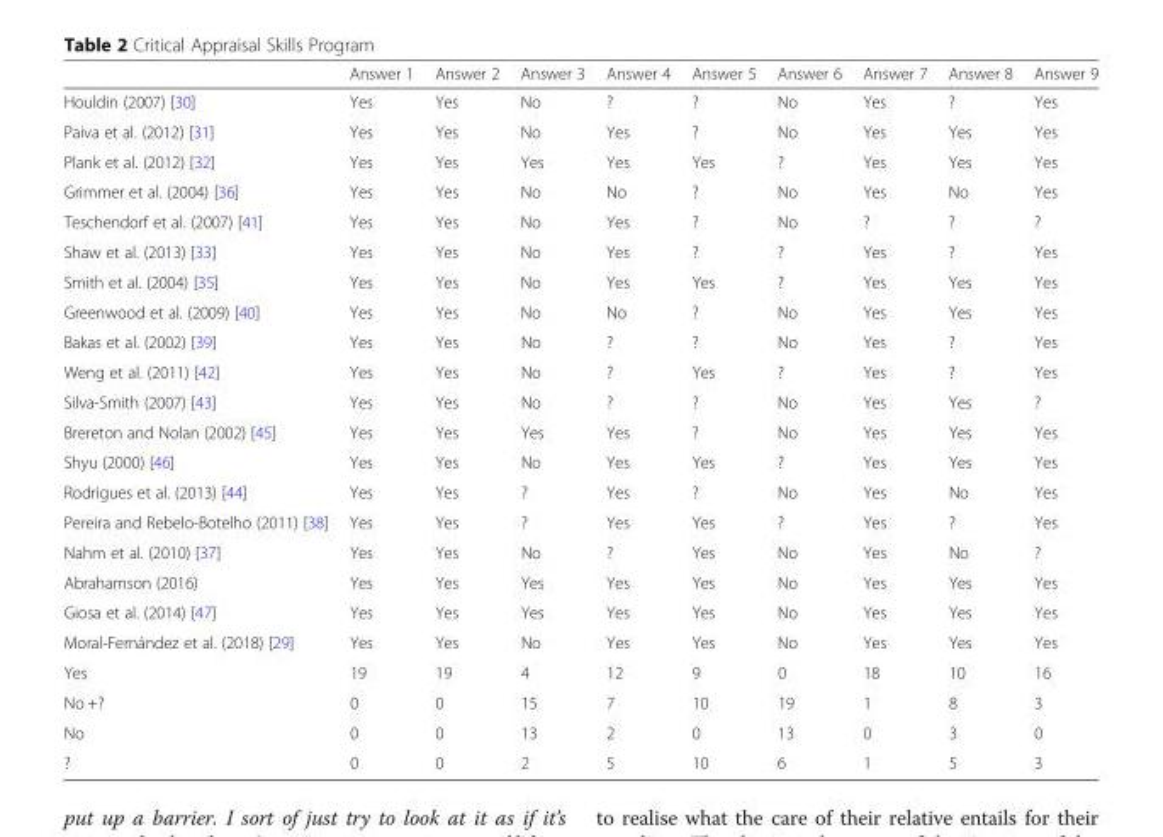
<table><thead><tr><td></td><td>Answer 1</td><td>Answer 2</td><td>Answer 3</td><td>Answer 4</td><td>Answer 5</td><td>Answer 6</td><td>Answer 7</td><td>Answer 8</td><td>Answer 9</td></tr></thead><tbody><tr><td>Houldin (2007) [30]</td><td>Yes</td><td>Yes</td><td>No</td><td>?</td><td>?</td><td>No</td><td>Yes</td><td>?</td><td>Yes</td></tr><tr><td>Paiva et al. (2012) [31]</td><td>Yes</td><td>Yes</td><td>No</td><td>Yes</td><td>?</td><td>No</td><td>Yes</td><td>Yes</td><td>Yes</td></tr><tr><td>Plank et al. (2012) [32]</td><td>Yes</td><td>Yes</td><td>Yes</td><td>Yes</td><td>Yes</td><td>?</td><td>Yes</td><td>Yes</td><td>Yes</td></tr><tr><td>Grimmer et al. (2004) [36]</td><td>Yes</td><td>Yes</td><td>No</td><td>No</td><td>?</td><td>No</td><td>Yes</td><td>No</td><td>Yes</td></tr><tr><td>Teschendorf et al. (2007) [41]</td><td>Yes</td><td>Yes</td><td>No</td><td>Yes</td><td>?</td><td>No</td><td>?</td><td>?</td><td>?</td></tr><tr><td>Shaw et al. (2013) [33]</td><td>Yes</td><td>Yes</td><td>No</td><td>Yes</td><td>?</td><td>?</td><td>Yes</td><td>?</td><td>Yes</td></tr><tr><td>Smith et al. (2004) [35]</td><td>Yes</td><td>Yes</td><td>No</td><td>Yes</td><td>Yes</td><td>?</td><td>Yes</td><td>Yes</td><td>Yes</td></tr><tr><td>Greenwood et al. (2009) [40]</td><td>Yes</td><td>Yes</td><td>No</td><td>No</td><td>?</td><td>No</td><td>Yes</td><td>Yes</td><td>Yes</td></tr><tr><td>Bakas et al. (2002) [39]</td><td>Yes</td><td>Yes</td><td>No</td><td>?</td><td>?</td><td>No</td><td>Yes</td><td>?</td><td>Yes</td></tr><tr><td>Weng et al. (2011) [42]</td><td>Yes</td><td>Yes</td><td>No</td><td>?</td><td>Yes</td><td>?</td><td>Yes</td><td>?</td><td>Yes</td></tr><tr><td>Silva-Smith (2007) [43]</td><td>Yes</td><td>Yes</td><td>No</td><td>?</td><td>?</td><td>No</td><td>Yes</td><td>Yes</td><td>?</td></tr><tr><td>Brereton and Nolan (2002) [45]</td><td>Yes</td><td>Yes</td><td>Yes</td><td>Yes</td><td>?</td><td>No</td><td>Yes</td><td>Yes</td><td>Yes</td></tr><tr><td>Shyu (2000) [46]</td><td>Yes</td><td>Yes</td><td>No</td><td>Yes</td><td>Yes</td><td>?</td><td>Yes</td><td>Yes</td><td>Yes</td></tr><tr><td>Rodrigues et al. (2013) [44]</td><td>Yes</td><td>Yes</td><td>?</td><td>Yes</td><td>?</td><td>No</td><td>Yes</td><td>No</td><td>Yes</td></tr><tr><td>Pereira and Rebelo-Botelho (2011) [38]</td><td>Yes</td><td>Yes</td><td>?</td><td>Yes</td><td>Yes</td><td>?</td><td>Yes</td><td>?</td><td>Yes</td></tr><tr><td>Nahm et al. (2010) [37]</td><td>Yes</td><td>Yes</td><td>No</td><td>?</td><td>Yes</td><td>No</td><td>Yes</td><td>No</td><td>?</td></tr><tr><td>Abrahamson (2016)</td><td>Yes</td><td>Yes</td><td>Yes</td><td>Yes</td><td>Yes</td><td>No</td><td>Yes</td><td>Yes</td><td>Yes</td></tr><tr><td>Giosa et al. (2014) [47]</td><td>Yes</td><td>Yes</td><td>Yes</td><td>Yes</td><td>Yes</td><td>No</td><td>Yes</td><td>Yes</td><td>Yes</td></tr><tr><td>Moral-Fernández et al. (2018) [29]</td><td>Yes</td><td>Yes</td><td>No</td><td>Yes</td><td>Yes</td><td>No</td><td>Yes</td><td>Yes</td><td>Yes</td></tr><tr><td>Yes</td><td>19</td><td>19</td><td>4</td><td>12</td><td>9</td><td>0</td><td>18</td><td>10</td><td>16</td></tr><tr><td>No +?</td><td>0</td><td>0</td><td>15</td><td>7</td><td>10</td><td>19</td><td>1</td><td>8</td><td>3</td></tr><tr><td>No</td><td>0</td><td>0</td><td>13</td><td>2</td><td>0</td><td>13</td><td>0</td><td>3</td><td>0</td></tr><tr><td>?</td><td>0</td><td>0</td><td>2</td><td>5</td><td>10</td><td>6</td><td>1</td><td>5</td><td>3</td></tr></tbody></table>